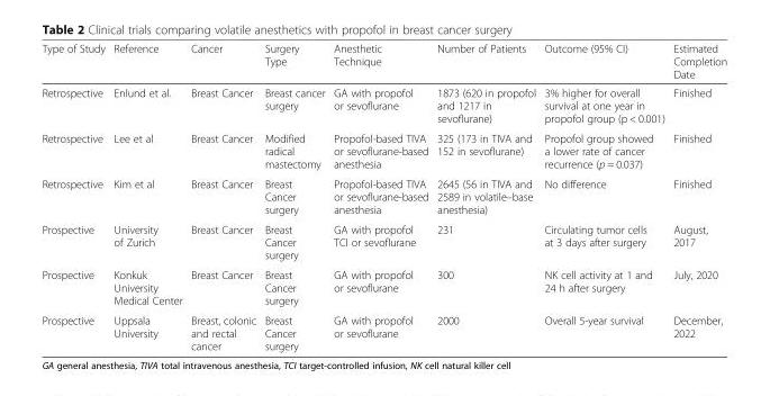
<table><thead><tr><td>Type of Study</td><td>Reference</td><td>Cancer</td><td>Surgery Type</td><td>Anesthetic Technique</td><td>Number of Patients</td><td>Outcome (95% CI)</td><td>Estimated Completion Date</td></tr></thead><tbody><tr><td>Retrospective</td><td>Enlund et al.</td><td>Breast Cancer</td><td>Breast cancer surgery</td><td>GA with propofol or sevoflurane</td><td>1873 (620 in propofol and 1217 in sevoflurane)</td><td>3% higher for overall survival at one year in propofol group (p &lt; 0.001)</td><td>Finished</td></tr><tr><td>Retrospective</td><td>Lee et al</td><td>Breast Cancer</td><td>Modified radical mastectomy</td><td>Propofol-based TIVA or sevoflurane-based anesthesia</td><td>325 (173 in TIVA and 152 in sevoflurane)</td><td>Propofol group showed a lower rate of cancer recurrence (p = 0.037)</td><td>Finished</td></tr><tr><td>Retrospective</td><td>Kim et al</td><td>Breast Cancer</td><td>Breast Cancer surgery</td><td>Propofol-based TIVA or sevoflurane-based anesthesia</td><td>2645 (56 in TIVA and 2589 in volatile–base anesthesia)</td><td>No difference</td><td>Finished</td></tr><tr><td>Prospective</td><td>University of Zurich</td><td>Breast Cancer</td><td>Breast Cancer surgery</td><td>GA with propofol TCI or sevoflurane</td><td>231</td><td>Circulating tumor cells at 3 days after surgery</td><td>August, 2017</td></tr><tr><td>Prospective</td><td>Konkuk University Medical Center</td><td>Breast Cancer</td><td>Breast Cancer surgery</td><td>GA with propofol or sevoflurane</td><td>300</td><td>NK cell activity at 1 and 24 h after surgery</td><td>July, 2020</td></tr><tr><td>Prospective</td><td>Uppsala University</td><td>Breast, colonic and rectal cancer</td><td>Breast Cancer surgery</td><td>GA with propofol or sevoflurane</td><td>2000</td><td>Overall 5-year survival</td><td>December, 2022</td></tr></tbody></table>